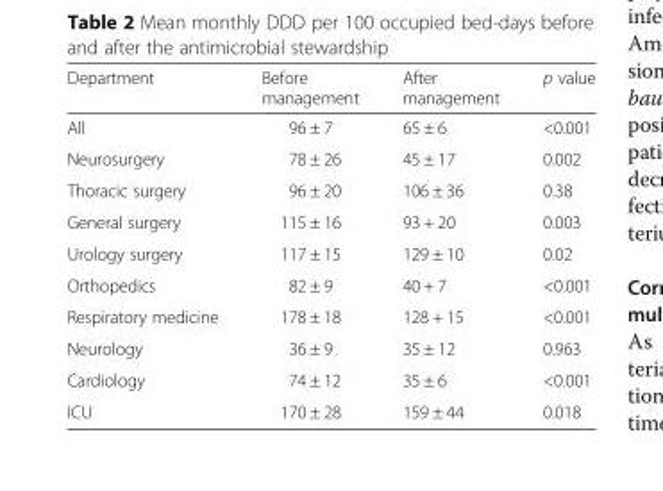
<table><thead><tr><td>Department</td><td>Before management</td><td>After management</td><td>p value</td></tr></thead><tbody><tr><td>All</td><td>96 ± 7</td><td>65 ± 6</td><td>&lt;0.001</td></tr><tr><td>Neurosurgery</td><td>78 ± 26</td><td>45 ± 17</td><td>0.002</td></tr><tr><td>Thoracic surgery</td><td>96 ± 20</td><td>106 ± 36</td><td>0.38</td></tr><tr><td>General surgery</td><td>115 ± 16</td><td>93 + 20</td><td>0.003</td></tr><tr><td>Urology surgery</td><td>117 ± 15</td><td>129 ± 10</td><td>0.02</td></tr><tr><td>Orthopedics</td><td>82 ± 9</td><td>40 + 7</td><td>&lt;0.001</td></tr><tr><td>Respiratory medicine</td><td>178 ± 18</td><td>128 + 15</td><td>&lt;0.001</td></tr><tr><td>Neurology</td><td>36 ± 9</td><td>35 ± 12</td><td>0.963</td></tr><tr><td>Cardiology</td><td>74 ± 12</td><td>35 ± 6</td><td>&lt;0.001</td></tr><tr><td>ICU</td><td>170 ± 28</td><td>159 ± 44</td><td>0.018</td></tr></tbody></table>